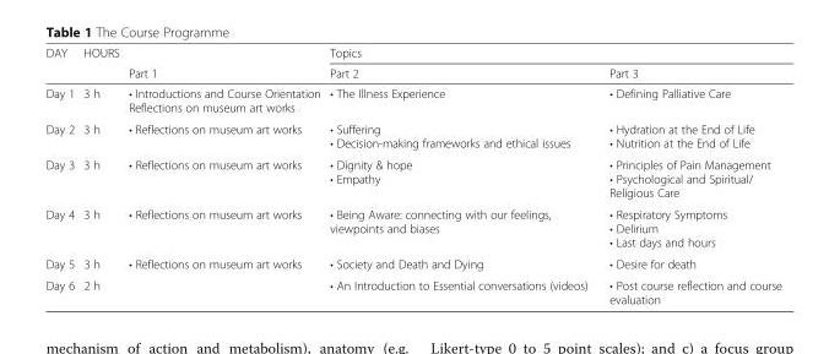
<table><thead><tr><td rowspan="2">DAY</td><td rowspan="2">HOURS</td><td rowspan="2">Part 1</td><td colspan="2">Topics</td></tr><tr><td>Part 2</td><td>Part 3</td></tr></thead><tbody><tr><td>Day 1</td><td>3 h</td><td>• Introductions and Course Orientation Reflections on museum art works</td><td>• The Illness Experience</td><td>• Defining Palliative Care</td></tr><tr><td>Day 2</td><td>3 h</td><td>• Reflections on museum art works</td><td>• Suffering • Decision-making frameworks and ethical issues</td><td>• Hydration at the End of Life • Nutrition at the End of Life</td></tr><tr><td>Day 3</td><td>3 h</td><td>• Reflections on museum art works</td><td>• Dignity &amp; hope • Empathy</td><td>• Principles of Pain Management • Psychological and Spiritual/ Religious Care</td></tr><tr><td>Day 4</td><td>3 h</td><td>• Reflections on museum art works</td><td>• Being Aware: connecting with our feelings, viewpoints and biases</td><td>• Respiratory Symptoms • Delirium • Last days and hours</td></tr><tr><td>Day 5</td><td>3 h</td><td>• Reflections on museum art works</td><td>• Society and Death and Dying</td><td>• Desire for death</td></tr><tr><td>Day 6</td><td>2 h</td><td></td><td>• An Introduction to Essential conversations (videos)</td><td>• Post course reflection and course evaluation</td></tr></tbody></table>